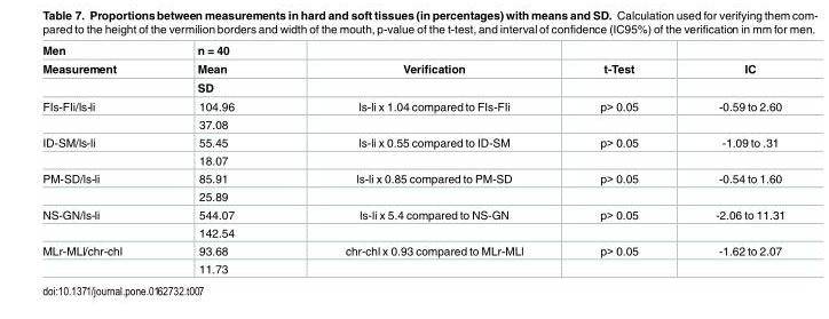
<table><thead><tr><td rowspan="3">Men Measurement</td><td rowspan="3">n = 40 Mean SD</td><td rowspan="3">Verification</td><td rowspan="3">t-Test</td><td rowspan="3">IC</td></tr><tr></tr><tr></tr></thead><tbody><tr><td rowspan="2">FIs-FIi/ls-li</td><td>104.96</td><td>ls-li x 1.04 compared to FIs-FIi</td><td>p&gt; 0.05</td><td>-0.59 to 2.60</td></tr><tr><td>37.08</td><td></td><td></td><td></td></tr><tr><td rowspan="2">ID-SM/ls-li</td><td>55.45</td><td>ls-li x 0.55 compared to ID-SM</td><td>p&gt; 0.05</td><td>-1.09 to .31</td></tr><tr><td>18.07</td><td></td><td></td><td></td></tr><tr><td rowspan="2">PM-SD/ls-li</td><td>85.91</td><td>ls-li x 0.85 compared to PM-SD</td><td>p&gt; 0.05</td><td>-0.54 to 1.60</td></tr><tr><td>25.89</td><td></td><td></td><td></td></tr><tr><td rowspan="2">NS-GN/ls-li</td><td>544.07</td><td>ls-li x 5.4 compared to NS-GN</td><td>p&gt; 0.05</td><td>-2.06 to 11.31</td></tr><tr><td>142.54</td><td></td><td></td><td></td></tr><tr><td rowspan="2">MLr-MLl/chr-chl</td><td>93.68</td><td>chr-chl x 0.93 compared to MLr-MLl</td><td>p&gt; 0.05</td><td>-1.62 to 2.07</td></tr><tr><td>11.73</td><td></td><td></td><td></td></tr></tbody></table>